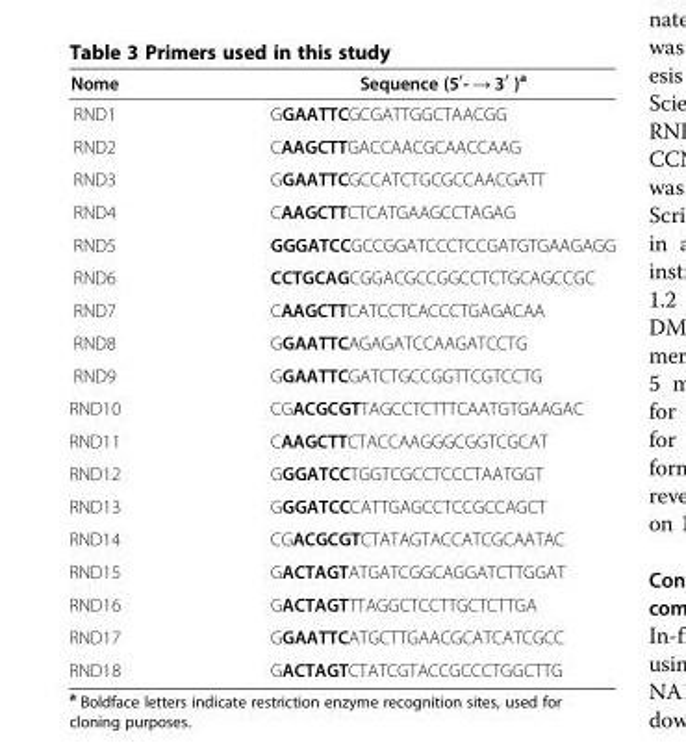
<table><thead><tr><td>Nome</td><td>Sequence (5<sup>′</sup>- → 3<sup>′</sup> )<sup>a</sup></td></tr></thead><tbody><tr><td>RND1</td><td>GGAATTCGCGATTGGCTAACGG</td></tr><tr><td>RND2</td><td>CAAGCTTGACCAACGCAACCAAG</td></tr><tr><td>RND3</td><td>GGAATTCGCCATCTGCGCCAACGATT</td></tr><tr><td>RND4</td><td>CAAGCTTCTCATGAAGCCTAGAG</td></tr><tr><td>RND5</td><td>GGGATCCGCCGGATCCCTCCGATGTGAAGAGG</td></tr><tr><td>RND6</td><td>CCTGCAGCGGACGCCGGCCTCTGCAGCCGC</td></tr><tr><td>RND7</td><td>CAAGCTTCATCCTCACCCTGAGACAA</td></tr><tr><td>RND8</td><td>GGAATTCAGAGATCCAAGATCCTG</td></tr><tr><td>RND9</td><td>GGAATTCGATCTGCCGGTTCGTCCTG</td></tr><tr><td>RND10</td><td>CGACGCGTTAGCCTCTTTCAATGTGAAGAC</td></tr><tr><td>RND11</td><td>CAAGCTTCTACCAAGGGCGGTCGCAT</td></tr><tr><td>RND12</td><td>GGGATCCTGGTCGCCTCCCTAATGGT</td></tr><tr><td>RND13</td><td>GGGATCCCATTGAGCCTCCGCCAGCT</td></tr><tr><td>RND14</td><td>CGACGCGTCTATAGTACCATCGCAATAC</td></tr><tr><td>RND15</td><td>GACTAGTATGATCGGCAGGATCTTGGAT</td></tr><tr><td>RND16</td><td>GACTAGTTTAGGCTCCTTGCTCTTGA</td></tr><tr><td>RND17</td><td>GGAATTCATGCTTGAACGCATCATCGCC</td></tr><tr><td>RND18</td><td>GACTAGTCTATCGTACCGCCCTGGCTTG</td></tr></tbody></table>